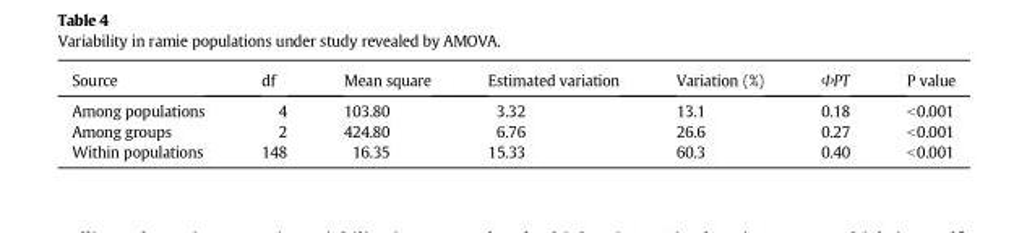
<table><thead><tr><td>Source</td><td>df</td><td>Mean square</td><td>Estimated variation</td><td>Variation (%)</td><td>ΦPT</td><td>P value</td></tr></thead><tbody><tr><td>Among populations</td><td>4</td><td>103.80</td><td>3.32</td><td>13.1</td><td>0.18</td><td>&lt;0.001</td></tr><tr><td>Among groups</td><td>2</td><td>424.80</td><td>6.76</td><td>26.6</td><td>0.27</td><td>&lt;0.001</td></tr><tr><td>Within populations</td><td>148</td><td>16.35</td><td>15.33</td><td>60.3</td><td>0.40</td><td>&lt;0.001</td></tr></tbody></table>